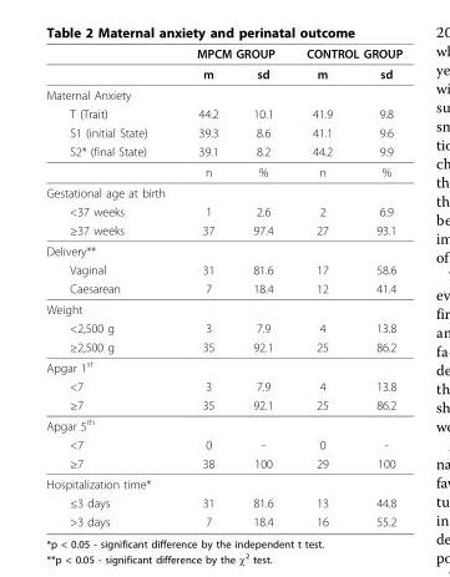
<table><thead><tr><td rowspan="2"></td><td colspan="2">MPCM GROUP</td><td colspan="2">CONTROL GROUP</td></tr><tr><td>m</td><td>sd</td><td>m</td><td>sd</td></tr></thead><tbody><tr><td colspan="5">Maternal Anxiety</td></tr><tr><td>T (Trait)</td><td>44.2</td><td>10.1</td><td>41.9</td><td>9.8</td></tr><tr><td>S1 (initial State)</td><td>39.3</td><td>8.6</td><td>41.1</td><td>9.6</td></tr><tr><td rowspan="2">S2* (final State)</td><td>39.1</td><td>8.2</td><td>44.2</td><td>9.9</td></tr><tr><td>n</td><td>%</td><td>n</td><td>%</td></tr><tr><td colspan="5">Gestational age at birth</td></tr><tr><td>&lt;37 weeks</td><td>1</td><td>2.6</td><td>2</td><td>6.9</td></tr><tr><td>≥37 weeks</td><td>37</td><td>97.4</td><td>27</td><td>93.1</td></tr><tr><td colspan="5">Delivery**</td></tr><tr><td>Vaginal</td><td>31</td><td>81.6</td><td>17</td><td>58.6</td></tr><tr><td>Caesarean</td><td>7</td><td>18.4</td><td>12</td><td>41.4</td></tr><tr><td colspan="5">Weight</td></tr><tr><td>&lt;2,500 g</td><td>3</td><td>7.9</td><td>4</td><td>13.8</td></tr><tr><td>≥2,500 g</td><td>35</td><td>92.1</td><td>25</td><td>86.2</td></tr><tr><td colspan="5">Apgar 1<sup>st</sup></td></tr><tr><td>&lt;7</td><td>3</td><td>7.9</td><td>4</td><td>13.8</td></tr><tr><td>≥7</td><td>35</td><td>92.1</td><td>25</td><td>86.2</td></tr><tr><td colspan="5">Apgar 5<sup>th</sup></td></tr><tr><td>&lt;7</td><td>0</td><td>-</td><td>0</td><td>-</td></tr><tr><td>≥7</td><td>38</td><td>100</td><td>29</td><td>100</td></tr><tr><td colspan="5">Hospitalization time*</td></tr><tr><td>≤3 days</td><td>31</td><td>81.6</td><td>13</td><td>44.8</td></tr><tr><td>&gt;3 days</td><td>7</td><td>18.4</td><td>16</td><td>55.2</td></tr></tbody></table>